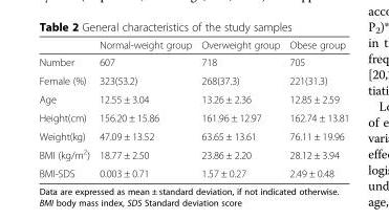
<table><thead><tr><td></td><td>Normal-weight group</td><td>Overweight group</td><td>Obese group</td></tr></thead><tbody><tr><td>Number</td><td>607</td><td>718</td><td>705</td></tr><tr><td>Female (%)</td><td>323(53.2)</td><td>268(37.3)</td><td>221(31.3)</td></tr><tr><td>Age</td><td>12.55 ± 3.04</td><td>13.26 ± 2.36</td><td>12.85 ± 2.59</td></tr><tr><td>Height(cm)</td><td>156.20 ± 15.86</td><td>161.96 ± 12.97</td><td>162.74 ± 13.81</td></tr><tr><td>Weight(kg)</td><td>47.09 ± 13.52</td><td>63.65 ± 13.61</td><td>76.11 ± 19.96</td></tr><tr><td>BMI (kg/m<sup>2</sup>)</td><td>18.77 ± 2.50</td><td>23.86 ± 2.20</td><td>28.12 ± 3.94</td></tr><tr><td>BMI-SDS</td><td>0.003 ± 0.71</td><td>1.57 ± 0.27</td><td>2.49 ± 0.48</td></tr></tbody></table>